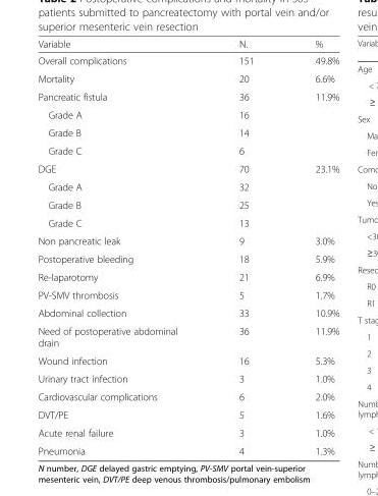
<table><thead><tr><td>Variable</td><td>N.</td><td>%</td></tr></thead><tbody><tr><td>Overall complications</td><td>151</td><td>49.8%</td></tr><tr><td>Mortality</td><td>20</td><td>6.6%</td></tr><tr><td>Pancreatic fistula</td><td>36</td><td>11.9%</td></tr><tr><td>Grade A</td><td>16</td><td></td></tr><tr><td>Grade B</td><td>14</td><td></td></tr><tr><td>Grade C</td><td>6</td><td></td></tr><tr><td>DGE</td><td>70</td><td>23.1%</td></tr><tr><td>Grade A</td><td>32</td><td></td></tr><tr><td>Grade B</td><td>25</td><td></td></tr><tr><td>Grade C</td><td>13</td><td></td></tr><tr><td>Non pancreatic leak</td><td>9</td><td>3.0%</td></tr><tr><td>Postoperative bleeding</td><td>18</td><td>5.9%</td></tr><tr><td>Re-laparotomy</td><td>21</td><td>6.9%</td></tr><tr><td>PV-SMV thrombosis</td><td>5</td><td>1.7%</td></tr><tr><td>Abdominal collection</td><td>33</td><td>10.9%</td></tr><tr><td>Need of postoperative abdominal drain</td><td>36</td><td>11.9%</td></tr><tr><td>Wound infection</td><td>16</td><td>5.3%</td></tr><tr><td>Urinary tract infection</td><td>3</td><td>1.0%</td></tr><tr><td>Cardiovascular complications</td><td>6</td><td>2.0%</td></tr><tr><td>DVT/PE</td><td>5</td><td>1.6%</td></tr><tr><td>Acute renal failure</td><td>3</td><td>1.0%</td></tr><tr><td>Pneumonia</td><td>4</td><td>1.3%</td></tr></tbody></table>